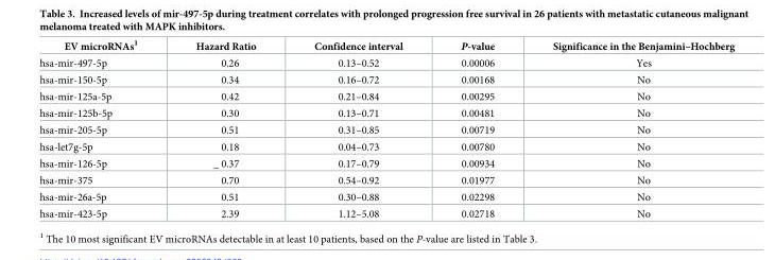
<table><thead><tr><td>EV microRNAs<sup>1</sup></td><td>Hazard Ratio</td><td>Confidence interval</td><td>P-value</td><td>Significance in the Benjamini–Hochberg</td></tr></thead><tbody><tr><td>hsa-mir-497-5p</td><td>0.26</td><td>0.13–0.52</td><td>0.00006</td><td>Yes</td></tr><tr><td>hsa-mir-150-5p</td><td>0.34</td><td>0.16–0.72</td><td>0.00168</td><td>No</td></tr><tr><td>hsa-mir-125a-5p</td><td>0.42</td><td>0.21–0.84</td><td>0.00295</td><td>No</td></tr><tr><td>hsa-mir-125b-5p</td><td>0.30</td><td>0.13–0.71</td><td>0.00481</td><td>No</td></tr><tr><td>hsa-mir-205-5p</td><td>0.51</td><td>0.31–0.85</td><td>0.00719</td><td>No</td></tr><tr><td>hsa-let7g-5p</td><td>0.18</td><td>0.04–0.73</td><td>0.00780</td><td>No</td></tr><tr><td>hsa-mir-126-5p</td><td>_ 0.37</td><td>0.17–0.79</td><td>0.00934</td><td>No</td></tr><tr><td>hsa-mir-375</td><td>0.70</td><td>0.54–0.92</td><td>0.01977</td><td>No</td></tr><tr><td>hsa-mir-26a-5p</td><td>0.51</td><td>0.30–0.88</td><td>0.02298</td><td>No</td></tr><tr><td>hsa-mir-423-5p</td><td>2.39</td><td>1.12–5.08</td><td>0.02718</td><td>No</td></tr></tbody></table>